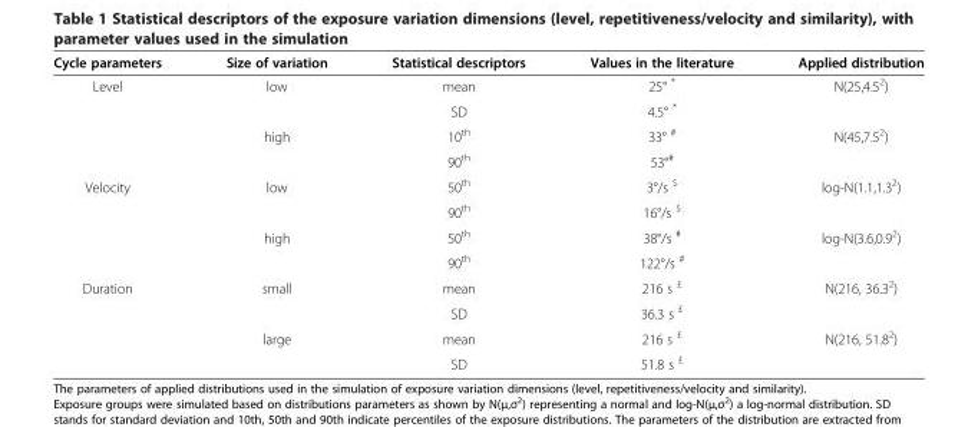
<table><thead><tr><td>Cycle parameters</td><td>Size of variation</td><td>Statistical descriptors</td><td>Values in the literature</td><td>Applied distribution</td></tr></thead><tbody><tr><td rowspan="4">Level</td><td>low</td><td>mean</td><td>25° *</td><td>N(25,4.5<sup>2</sup>)</td></tr><tr><td></td><td>SD</td><td>4.5° *</td><td></td></tr><tr><td>high</td><td>10<sup>th</sup></td><td>33° <sup>#</sup></td><td>N(45,7.5<sup>2</sup>)</td></tr><tr><td></td><td>90<sup>th</sup></td><td>53°<sup>#</sup></td><td></td></tr><tr><td rowspan="4">Velocity</td><td>low</td><td>50<sup>th</sup></td><td>3°/s <sup>$</sup></td><td>log-N(1.1,1.3<sup>2</sup>)</td></tr><tr><td></td><td>90<sup>th</sup></td><td>16°/s <sup>$</sup></td><td></td></tr><tr><td>high</td><td>50<sup>th</sup></td><td>38°/s <sup>#</sup></td><td>log-N(3.6,0.9<sup>2</sup>)</td></tr><tr><td></td><td>90<sup>th</sup></td><td>122°/s <sup>#</sup></td><td></td></tr><tr><td rowspan="4">Duration</td><td>small</td><td>mean</td><td>216 s <sup>£</sup></td><td>N(216, 36.3<sup>2</sup>)</td></tr><tr><td></td><td>SD</td><td>36.3 s <sup>£</sup></td><td></td></tr><tr><td>large</td><td>mean</td><td>216 s <sup>£</sup></td><td>N(216, 51.8<sup>2</sup>)</td></tr><tr><td></td><td>SD</td><td>51.8 s <sup>£</sup></td><td></td></tr></tbody></table>